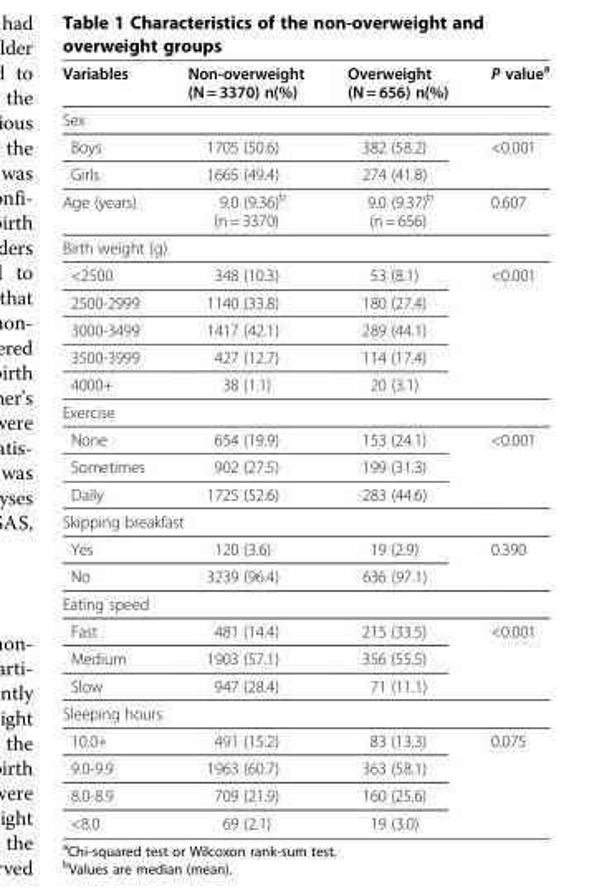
<table><thead><tr><td>Variables</td><td>Non-overweight (N = 3370) n(%)</td><td>Overweight (N = 656) n(%)</td><td>P value<sup>a</sup></td></tr></thead><tbody><tr><td colspan="4">Sex</td></tr><tr><td>Boys</td><td>1705 (50.6)</td><td>382 (58.2)</td><td rowspan="2">&lt;0.001</td></tr><tr><td>Girls</td><td>1665 (49.4)</td><td>274 (41.8)</td></tr><tr><td>Age (years)</td><td>9.0 (9.36)<sup>b</sup> (n = 3370)</td><td>9.0 (9.37)<sup>b</sup> (n = 656)</td><td>0.607</td></tr><tr><td colspan="4">Birth weight (g)</td></tr><tr><td>&lt;2500</td><td>348 (10.3)</td><td>53 (8.1)</td><td rowspan="5">&lt;0.001</td></tr><tr><td>2500-2999</td><td>1140 (33.8)</td><td>180 (27.4)</td></tr><tr><td>3000-3499</td><td>1417 (42.1)</td><td>289 (44.1)</td></tr><tr><td>3500-3999</td><td>427 (12.7)</td><td>114 (17.4)</td></tr><tr><td>4000+</td><td>38 (1.1)</td><td>20 (3.1)</td></tr><tr><td colspan="4">Exercise</td></tr><tr><td>None</td><td>654 (19.9)</td><td>153 (24.1)</td><td rowspan="3">&lt;0.001</td></tr><tr><td>Sometimes</td><td>902 (27.5)</td><td>199 (31.3)</td></tr><tr><td>Daily</td><td>1725 (52.6)</td><td>283 (44.6)</td></tr><tr><td colspan="4">Skipping breakfast</td></tr><tr><td>Yes</td><td>120 (3.6)</td><td>19 (2.9)</td><td rowspan="2">0.390</td></tr><tr><td>No</td><td>3239 (96.4)</td><td>636 (97.1)</td></tr><tr><td colspan="4">Eating speed</td></tr><tr><td>Fast</td><td>481 (14.4)</td><td>215 (33.5)</td><td rowspan="3">&lt;0.001</td></tr><tr><td>Medium</td><td>1903 (57.1)</td><td>356 (55.5)</td></tr><tr><td>Slow</td><td>947 (28.4)</td><td>71 (11.1)</td></tr><tr><td colspan="4">Sleeping hours</td></tr><tr><td>10.0+</td><td>491 (15.2)</td><td>83 (13.3)</td><td rowspan="4">0.075</td></tr><tr><td>9.0-9.9</td><td>1963 (60.7)</td><td>363 (58.1)</td></tr><tr><td>8.0-8.9</td><td>709 (21.9)</td><td>160 (25.6)</td></tr><tr><td>&lt;8.0</td><td>69 (2.1)</td><td>19 (3.0)</td></tr></tbody></table>